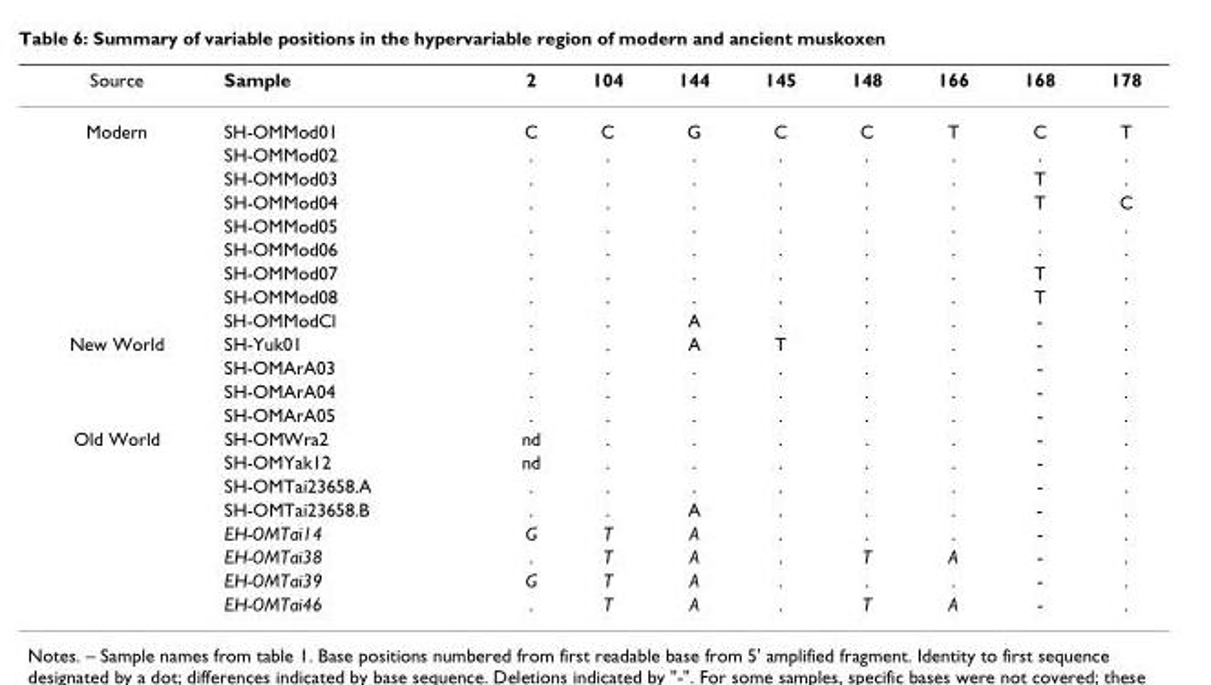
<table><thead><tr><td>Source</td><td>Sample</td><td>2</td><td>104</td><td>144</td><td>145</td><td>148</td><td>166</td><td>168</td><td>178</td></tr></thead><tbody><tr><td rowspan="9">Modern</td><td>SH-OMMod01</td><td>C</td><td>C</td><td>G</td><td>C</td><td>C</td><td>T</td><td>C</td><td>T</td></tr><tr><td>SH-OMMod02</td><td>.</td><td>.</td><td>.</td><td>.</td><td>.</td><td>.</td><td>.</td><td>.</td></tr><tr><td>SH-OMMod03</td><td>.</td><td>.</td><td>.</td><td>.</td><td>.</td><td>.</td><td>T</td><td>.</td></tr><tr><td>SH-OMMod04</td><td>.</td><td>.</td><td>.</td><td>.</td><td>.</td><td>.</td><td>T</td><td>C</td></tr><tr><td>SH-OMMod05</td><td>.</td><td>.</td><td>.</td><td>.</td><td>.</td><td>.</td><td>.</td><td>.</td></tr><tr><td>SH-OMMod06</td><td>.</td><td>.</td><td>.</td><td>.</td><td>.</td><td>.</td><td>.</td><td>.</td></tr><tr><td>SH-OMMod07</td><td>.</td><td>.</td><td>.</td><td>.</td><td>.</td><td>.</td><td>T</td><td>.</td></tr><tr><td>SH-OMMod08</td><td>.</td><td>.</td><td>.</td><td>.</td><td>.</td><td>.</td><td>T</td><td>.</td></tr><tr><td>SH-OMModCl</td><td>.</td><td>.</td><td>A</td><td>.</td><td>.</td><td>.</td><td>-</td><td>.</td></tr><tr><td rowspan="4">New World</td><td>SH-Yuk01</td><td>.</td><td>.</td><td>A</td><td>T</td><td>.</td><td>.</td><td>-</td><td>.</td></tr><tr><td>SH-OMArA03</td><td>.</td><td>.</td><td>.</td><td>.</td><td>.</td><td>.</td><td>-</td><td>.</td></tr><tr><td>SH-OMArA04</td><td>.</td><td>.</td><td>.</td><td>.</td><td>.</td><td>.</td><td>-</td><td>.</td></tr><tr><td>SH-OMArA05</td><td>.</td><td>.</td><td>.</td><td>.</td><td>.</td><td>.</td><td>-</td><td>.</td></tr><tr><td rowspan="8">Old World</td><td>SH-OMWra2</td><td>nd</td><td>.</td><td>.</td><td>.</td><td>.</td><td>.</td><td>-</td><td>.</td></tr><tr><td>SH-OMYak12</td><td>nd</td><td>.</td><td>.</td><td>.</td><td>.</td><td>.</td><td>-</td><td>.</td></tr><tr><td>SH-OMTai23658.A</td><td>.</td><td>.</td><td>.</td><td>.</td><td>.</td><td>.</td><td>-</td><td>.</td></tr><tr><td>SH-OMTai23658.B</td><td>.</td><td>.</td><td>A</td><td>.</td><td>.</td><td>.</td><td>-</td><td>.</td></tr><tr><td>EH-OMTai14</td><td>G</td><td>T</td><td>A</td><td>.</td><td>.</td><td>.</td><td>-</td><td>.</td></tr><tr><td>EH-OMTai38</td><td>.</td><td>T</td><td>A</td><td>.</td><td>T</td><td>A</td><td>-</td><td>.</td></tr><tr><td>EH-OMTai39</td><td>G</td><td>T</td><td>A</td><td>.</td><td>.</td><td>.</td><td>-</td><td>.</td></tr><tr><td>EH-OMTai46</td><td>.</td><td>T</td><td>A</td><td>.</td><td>T</td><td>A</td><td>-</td><td>.</td></tr></tbody></table>